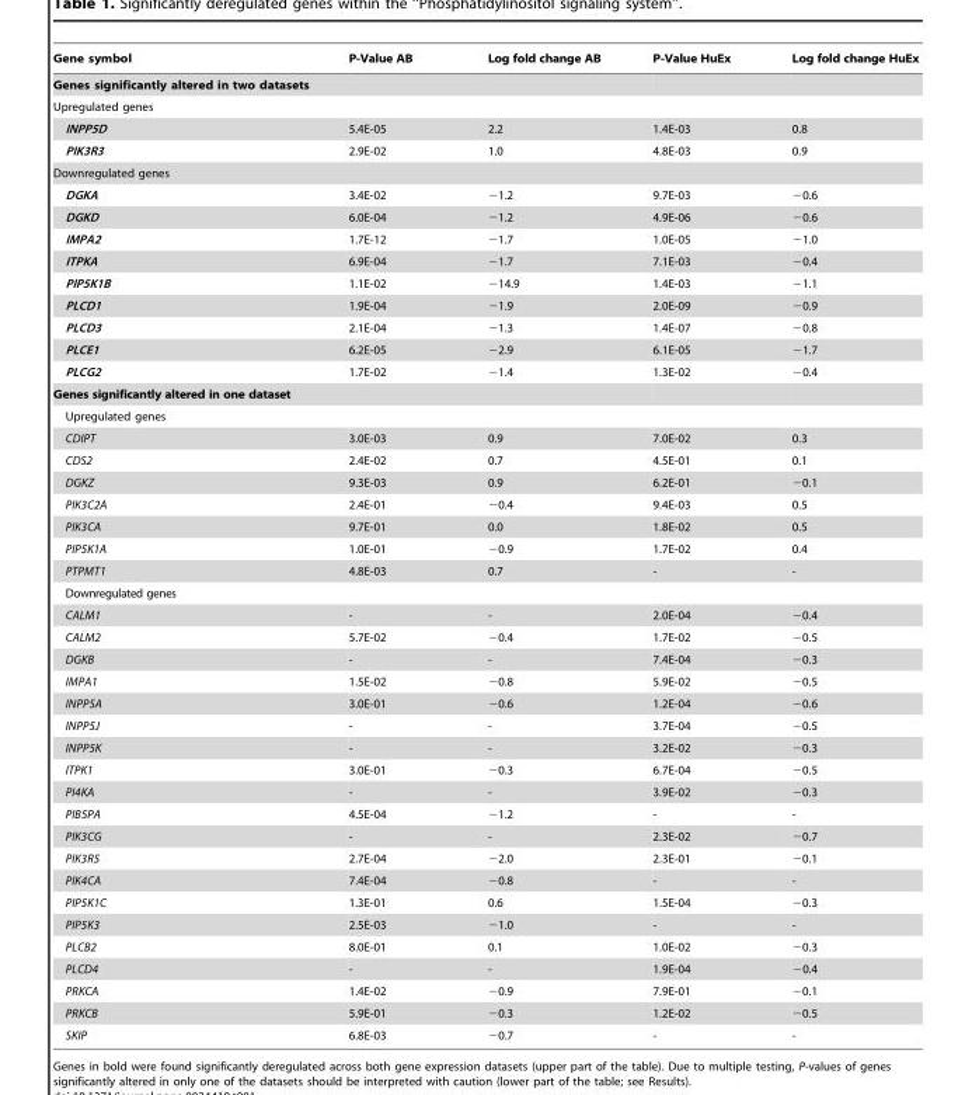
<table><thead><tr><td>Gene symbol</td><td>P-Value AB</td><td>Log fold change AB</td><td>P-Value HuEx</td><td>Log fold change HuEx</td></tr></thead><tbody><tr><td colspan="5">Genes significantly altered in two datasets</td></tr><tr><td colspan="5">Upregulated genes</td></tr><tr><td>INPP5D</td><td>5.4E-05</td><td>2.2</td><td>1.4E-03</td><td>0.8</td></tr><tr><td>PIK3R3</td><td>2.9E-02</td><td>1.0</td><td>4.8E-03</td><td>0.9</td></tr><tr><td colspan="5">Downregulated genes</td></tr><tr><td>DGKA</td><td>3.4E-02</td><td>−1.2</td><td>9.7E-03</td><td>−0.6</td></tr><tr><td>DGKD</td><td>6.0E-04</td><td>−1.2</td><td>4.9E-06</td><td>−0.6</td></tr><tr><td>IMPA2</td><td>1.7E-12</td><td>−1.7</td><td>1.0E-05</td><td>−1.0</td></tr><tr><td>ITPKA</td><td>6.9E-04</td><td>−1.7</td><td>7.1E-03</td><td>−0.4</td></tr><tr><td>PIP5K1B</td><td>1.1E-02</td><td>−14.9</td><td>1.4E-03</td><td>−1.1</td></tr><tr><td>PLCD1</td><td>1.9E-04</td><td>−1.9</td><td>2.0E-09</td><td>−0.9</td></tr><tr><td>PLCD3</td><td>2.1E-04</td><td>−1.3</td><td>1.4E-07</td><td>−0.8</td></tr><tr><td>PLCE1</td><td>6.2E-05</td><td>−2.9</td><td>6.1E-05</td><td>−1.7</td></tr><tr><td>PLCG2</td><td>1.7E-02</td><td>−1.4</td><td>1.3E-02</td><td>−0.4</td></tr><tr><td colspan="5">Genes significantly altered in one dataset</td></tr><tr><td colspan="5">Upregulated genes</td></tr><tr><td>CDIPT</td><td>3.0E-03</td><td>0.9</td><td>7.0E-02</td><td>0.3</td></tr><tr><td>CDS2</td><td>2.4E-02</td><td>0.7</td><td>4.5E-01</td><td>0.1</td></tr><tr><td>DGKZ</td><td>9.3E-03</td><td>0.9</td><td>6.2E-01</td><td>−0.1</td></tr><tr><td>PIK3C2A</td><td>2.4E-01</td><td>−0.4</td><td>9.4E-03</td><td>0.5</td></tr><tr><td>PIK3CA</td><td>9.7E-01</td><td>0.0</td><td>1.8E-02</td><td>0.5</td></tr><tr><td>PIP5K1A</td><td>1.0E-01</td><td>−0.9</td><td>1.7E-02</td><td>0.4</td></tr><tr><td>PTPMT1</td><td>4.8E-03</td><td>0.7</td><td>-</td><td>-</td></tr><tr><td colspan="5">Downregulated genes</td></tr><tr><td>CALM1</td><td>-</td><td>-</td><td>2.0E-04</td><td>−0.4</td></tr><tr><td>CALM2</td><td>5.7E-02</td><td>−0.4</td><td>1.7E-02</td><td>−0.5</td></tr><tr><td>DGKB</td><td>-</td><td>-</td><td>7.4E-04</td><td>−0.3</td></tr><tr><td>IMPA1</td><td>1.5E-02</td><td>−0.8</td><td>5.9E-02</td><td>−0.5</td></tr><tr><td>INPP5A</td><td>3.0E-01</td><td>−0.6</td><td>1.2E-04</td><td>−0.6</td></tr><tr><td>INPP5J</td><td>-</td><td>-</td><td>3.7E-04</td><td>−0.5</td></tr><tr><td>INPP5K</td><td>-</td><td>-</td><td>3.2E-02</td><td>−0.3</td></tr><tr><td>ITPK1</td><td>3.0E-01</td><td>−0.3</td><td>6.7E-04</td><td>−0.5</td></tr><tr><td>PI4KA</td><td>-</td><td>-</td><td>3.9E-02</td><td>−0.3</td></tr><tr><td>PIB5PA</td><td>4.5E-04</td><td>−1.2</td><td>-</td><td>-</td></tr><tr><td>PIK3CG</td><td>-</td><td>-</td><td>2.3E-02</td><td>−0.7</td></tr><tr><td>PIK3R5</td><td>2.7E-04</td><td>−2.0</td><td>2.3E-01</td><td>−0.1</td></tr><tr><td>PIK4CA</td><td>7.4E-04</td><td>−0.8</td><td>-</td><td>-</td></tr><tr><td>PIP5K1C</td><td>1.3E-01</td><td>0.6</td><td>1.5E-04</td><td>−0.3</td></tr><tr><td>PIP5K3</td><td>2.5E-03</td><td>−1.0</td><td>-</td><td>-</td></tr><tr><td>PLCB2</td><td>8.0E-01</td><td>0.1</td><td>1.0E-02</td><td>−0.3</td></tr><tr><td>PLCD4</td><td>-</td><td>-</td><td>1.9E-04</td><td>−0.4</td></tr><tr><td>PRKCA</td><td>1.4E-02</td><td>−0.9</td><td>7.9E-01</td><td>−0.1</td></tr><tr><td>PRKCB</td><td>5.9E-01</td><td>−0.3</td><td>1.2E-02</td><td>−0.5</td></tr><tr><td>SKIP</td><td>6.8E-03</td><td>−0.7</td><td>-</td><td>-</td></tr></tbody></table>